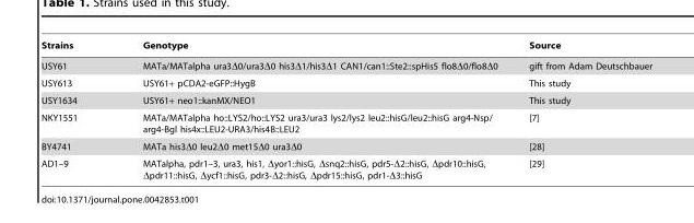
<table><thead><tr><td>Strains</td><td>Genotype</td><td>Source</td></tr></thead><tbody><tr><td>USY61</td><td>MATa/MATalpha ura3Δ0/ura3Δ0 his3Δ1/his3Δ1 CAN1/can1::Ste2::spHis5 flo8Δ0/flo8Δ0</td><td>gift from Adam Deutschbauer</td></tr><tr><td>USY613</td><td>USY61+ pCDA2-eGFP::HygB</td><td>This study</td></tr><tr><td>USY1634</td><td>USY61+ neo1::kanMX/NEO1</td><td>This study</td></tr><tr><td>NKY1551</td><td>MATa/MATalpha ho::LYS2/ho::LYS2 ura3/ura3 lys2/lys2 leu2::hisG/leu2::hisG arg4-Nsp/ arg4-Bgl his4x::LEU2-URA3/his4B::LEU2</td><td>[7]</td></tr><tr><td>BY4741</td><td>MATa his3Δ0 leu2Δ0 met15Δ0 ura3Δ0</td><td>[28]</td></tr><tr><td>AD1–9</td><td>MATalpha, pdr1–3, ura3, his1, Δyor1::hisG, Δsnq2::hisG, pdr5-Δ2::hisG, Δpdr10::hisG, Δpdr11::hisG, Δycf1::hisG, pdr3-Δ2::hisG, Δpdr15::hisG, pdr1-Δ3::hisG</td><td>[29]</td></tr></tbody></table>